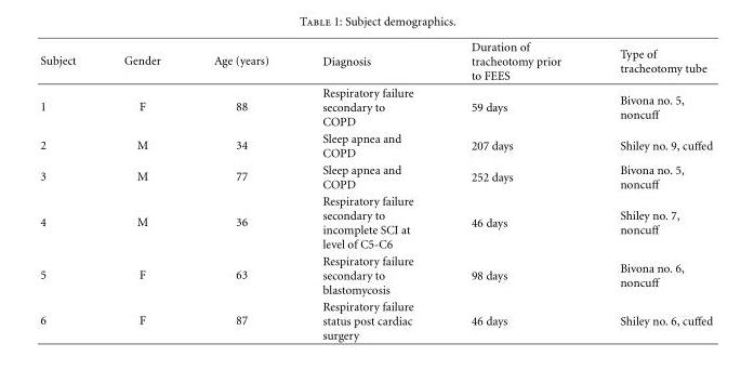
<table><thead><tr><td>Subject</td><td>Gender</td><td>Age (years)</td><td>Diagnosis</td><td>Duration of tracheotomy prior to FEES</td><td>Type of tracheotomy tube</td></tr></thead><tbody><tr><td>1</td><td>F</td><td>88</td><td>Respiratory failure secondary to COPD</td><td>59 days</td><td>Bivona no. 5, noncuff</td></tr><tr><td>2</td><td>M</td><td>34</td><td>Sleep apnea and COPD</td><td>207 days</td><td>Shiley no. 9, cuffed</td></tr><tr><td>3</td><td>M</td><td>77</td><td>Sleep apnea and COPD</td><td>252 days</td><td>Bivona no. 5, noncuff</td></tr><tr><td>4</td><td>M</td><td>36</td><td>Respiratory failure secondary to incomplete SCI at level of C5-C6</td><td>46 days</td><td>Shiley no. 7, noncuff</td></tr><tr><td>5</td><td>F</td><td>63</td><td>Respiratory failure secondary to blastomycosis</td><td>98 days</td><td>Bivona no. 6, noncuff</td></tr><tr><td>6</td><td>F</td><td>87</td><td>Respiratory failure status post cardiac surgery</td><td>46 days</td><td>Shiley no. 6, cuffed</td></tr></tbody></table>